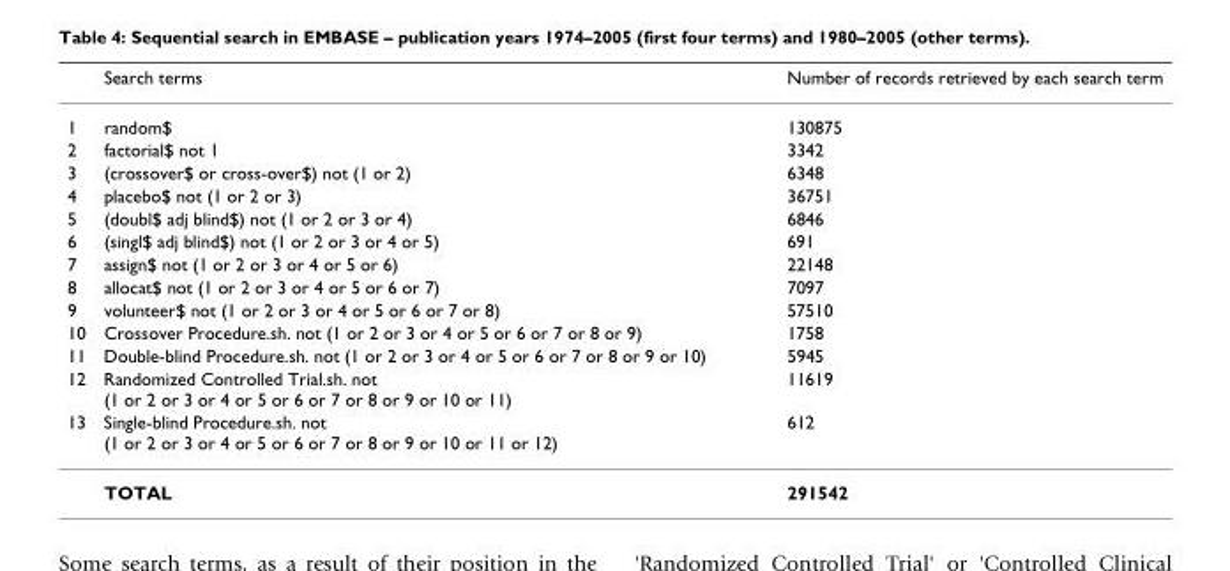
<table><thead><tr><td></td><td>Search terms</td><td>Number of records retrieved by each search term</td></tr></thead><tbody><tr><td>1</td><td>random$</td><td>130875</td></tr><tr><td>2</td><td>factorial$ not 1</td><td>3342</td></tr><tr><td>3</td><td>(crossover$ or cross-over$) not (1 or 2)</td><td>6348</td></tr><tr><td>4</td><td>placebo$ not (1 or 2 or 3)</td><td>36751</td></tr><tr><td>5</td><td>(doubl$ adj blind$) not (1 or 2 or 3 or 4)</td><td>6846</td></tr><tr><td>6</td><td>(singl$ adj blind$) not (1 or 2 or 3 or 4 or 5)</td><td>691</td></tr><tr><td>7</td><td>assign$ not (1 or 2 or 3 or 4 or 5 or 6)</td><td>22148</td></tr><tr><td>8</td><td>allocat$ not (1 or 2 or 3 or 4 or 5 or 6 or 7)</td><td>7097</td></tr><tr><td>9</td><td>volunteer$ not (1 or 2 or 3 or 4 or 5 or 6 or 7 or 8)</td><td>57510</td></tr><tr><td>10</td><td>Crossover Procedure.sh. not (1 or 2 or 3 or 4 or 5 or 6 or 7 or 8 or 9)</td><td>1758</td></tr><tr><td>11</td><td>Double-blind Procedure.sh. not (1 or 2 or 3 or 4 or 5 or 6 or 7 or 8 or 9 or 10)</td><td>5945</td></tr><tr><td>12</td><td>Randomized Controlled Trial.sh. not (1 or 2 or 3 or 4 or 5 or 6 or 7 or 8 or 9 or 10 or 11)</td><td>11619</td></tr><tr><td rowspan="2">13</td><td>Single-blind Procedure.sh. not (1 or 2 or 3 or 4 or 5 or 6 or 7 or 8 or 9 or 10 or 11 or 12)</td><td>612</td></tr><tr><td>TOTAL</td><td>291542</td></tr></tbody></table>